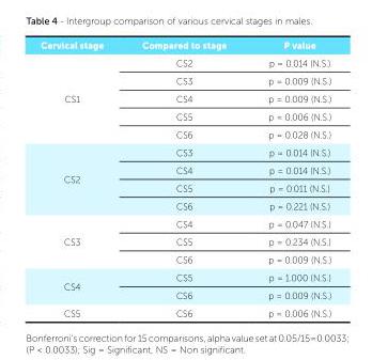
<table><thead><tr><td>Cervical stage</td><td>Compared to stage</td><td>P value</td></tr></thead><tbody><tr><td rowspan="5">CS1</td><td>CS2</td><td>p = 0.014 (N.S.)</td></tr><tr><td>CS3</td><td>p = 0.009 (N.S.)</td></tr><tr><td>CS4</td><td>p = 0.009 (N.S.)</td></tr><tr><td>CS5</td><td>p = 0.006 (N.S.)</td></tr><tr><td>CS6</td><td>p = 0.028 (N.S.)</td></tr><tr><td rowspan="4">CS2</td><td>CS3</td><td>p = 0.014 (N.S.)</td></tr><tr><td>CS4</td><td>p = 0.014 (N.S.)</td></tr><tr><td>CS5</td><td>p = 0.011 (N.S.)</td></tr><tr><td>CS6</td><td>p = 0.221 (N.S.)</td></tr><tr><td rowspan="3">CS3</td><td>CS4</td><td>p = 0.047 (N.S.)</td></tr><tr><td>CS5</td><td>p = 0.234 (N.S.)</td></tr><tr><td>CS6</td><td>p = 0.009 (N.S.)</td></tr><tr><td rowspan="2">CS4</td><td>CS5</td><td>p = 1.000 (N.S.)</td></tr><tr><td>CS6</td><td>p = 0.009 (N.S.)</td></tr><tr><td>CS5</td><td>CS6</td><td>p = 0.006 (N.S.)</td></tr></tbody></table>